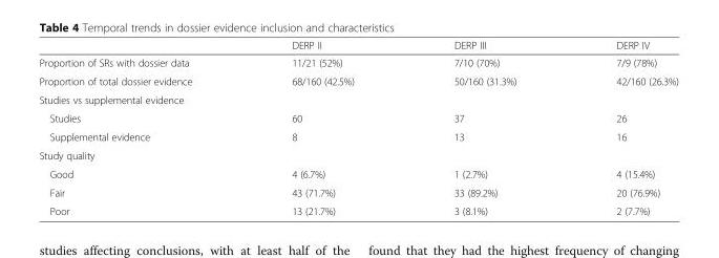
<table><thead><tr><td></td><td>DERP II</td><td>DERP III</td><td>DERP IV</td></tr></thead><tbody><tr><td>Proportion of SRs with dossier data</td><td>11/21 (52%)</td><td>7/10 (70%)</td><td>7/9 (78%)</td></tr><tr><td>Proportion of total dossier evidence</td><td>68/160 (42.5%)</td><td>50/160 (31.3%)</td><td>42/160 (26.3%)</td></tr><tr><td colspan="4">Studies vs supplemental evidence</td></tr><tr><td>Studies</td><td>60</td><td>37</td><td>26</td></tr><tr><td>Supplemental evidence</td><td>8</td><td>13</td><td>16</td></tr><tr><td colspan="4">Study quality</td></tr><tr><td>Good</td><td>4 (6.7%)</td><td>1 (2.7%)</td><td>4 (15.4%)</td></tr><tr><td>Fair</td><td>43 (71.7%)</td><td>33 (89.2%)</td><td>20 (76.9%)</td></tr><tr><td>Poor</td><td>13 (21.7%)</td><td>3 (8.1%)</td><td>2 (7.7%)</td></tr></tbody></table>